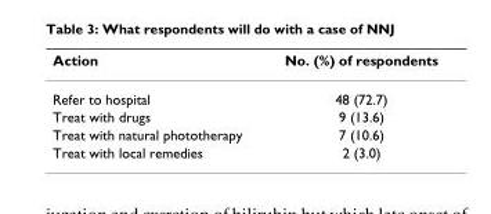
<table><thead><tr><td>Action</td><td>No. (%) of respondents</td></tr></thead><tbody><tr><td>Refer to hospital</td><td>48 (72.7)</td></tr><tr><td>Treat with drugs</td><td>9 (13.6)</td></tr><tr><td>Treat with natural phototherapy</td><td>7 (10.6)</td></tr><tr><td>Treat with local remedies</td><td>2 (3.0)</td></tr></tbody></table>